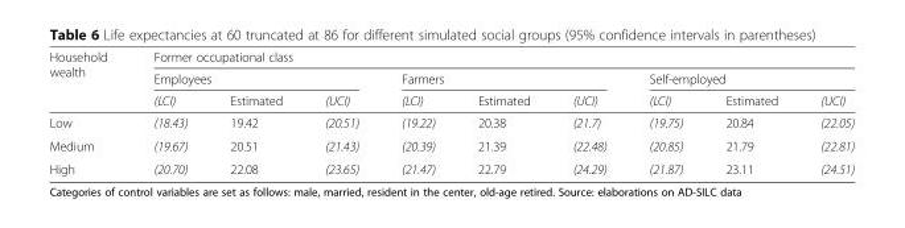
<table><thead><tr><td rowspan="3">Household wealth</td><td colspan="9">Former occupational class</td></tr><tr><td colspan="3">Employees</td><td colspan="3">Farmers</td><td colspan="3">Self-employed</td></tr><tr><td>(LCI)</td><td>Estimated</td><td>(UCI)</td><td>(LCI)</td><td>Estimated</td><td>(UCI)</td><td>(LCI)</td><td>Estimated</td><td>(UCI)</td></tr></thead><tbody><tr><td>Low</td><td>(18.43)</td><td>19.42</td><td>(20.51)</td><td>(19.22)</td><td>20.38</td><td>(21.7)</td><td>(19.75)</td><td>20.84</td><td>(22.05)</td></tr><tr><td>Medium</td><td>(19.67)</td><td>20.51</td><td>(21.43)</td><td>(20.39)</td><td>21.39</td><td>(22.48)</td><td>(20.85)</td><td>21.79</td><td>(22.81)</td></tr><tr><td>High</td><td>(20.70)</td><td>22.08</td><td>(23.65)</td><td>(21.47)</td><td>22.79</td><td>(24.29)</td><td>(21.87)</td><td>23.11</td><td>(24.51)</td></tr></tbody></table>